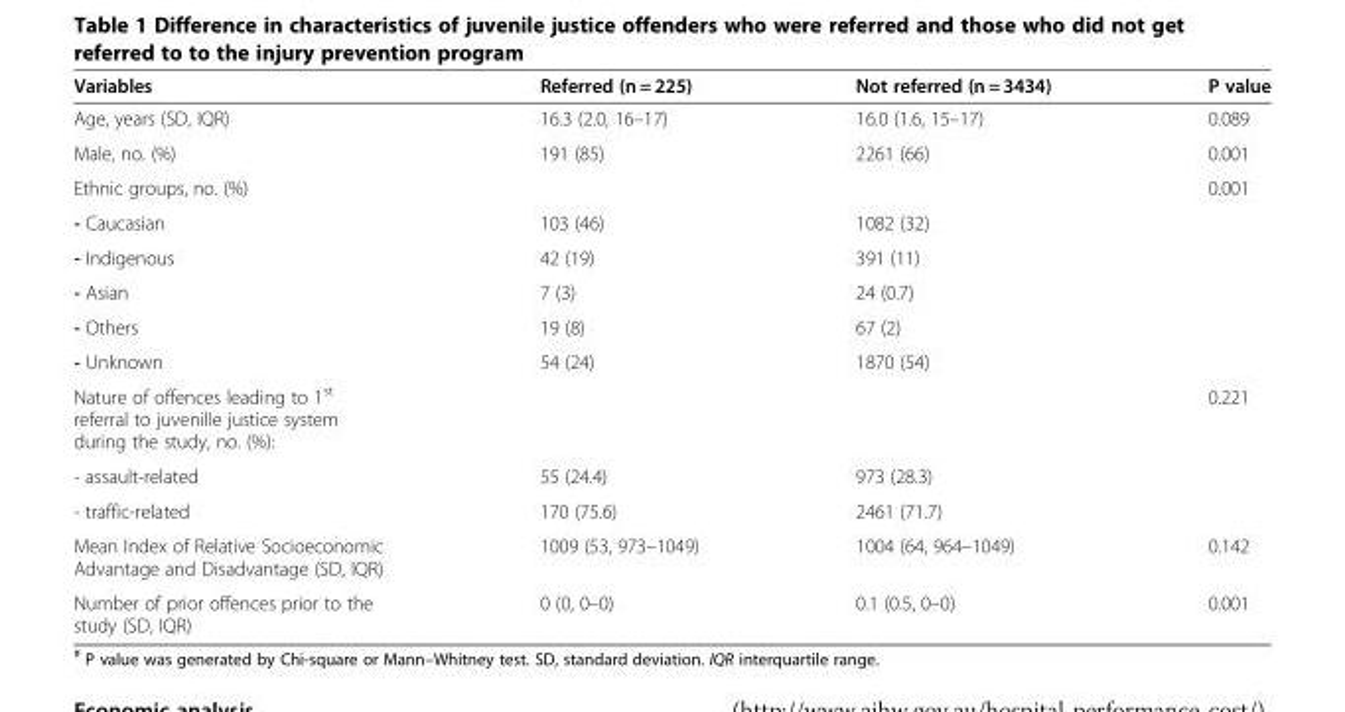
<table><thead><tr><td>Variables</td><td>Referred (n = 225)</td><td>Not referred (n = 3434)</td><td>P value</td></tr></thead><tbody><tr><td>Age, years (SD, IQR)</td><td>16.3 (2.0, 16–17)</td><td>16.0 (1.6, 15–17)</td><td>0.089</td></tr><tr><td>Male, no. (%)</td><td>191 (85)</td><td>2261 (66)</td><td>0.001</td></tr><tr><td>Ethnic groups, no. (%)</td><td></td><td></td><td>0.001</td></tr><tr><td>- Caucasian</td><td>103 (46)</td><td>1082 (32)</td><td></td></tr><tr><td>- Indigenous</td><td>42 (19)</td><td>391 (11)</td><td></td></tr><tr><td>- Asian</td><td>7 (3)</td><td>24 (0.7)</td><td></td></tr><tr><td>- Others</td><td>19 (8)</td><td>67 (2)</td><td></td></tr><tr><td>- Unknown</td><td>54 (24)</td><td>1870 (54)</td><td></td></tr><tr><td>Nature of offences leading to 1<sup>st</sup> referral to juvenille justice system during the study, no. (%):</td><td></td><td></td><td>0.221</td></tr><tr><td>- assault-related</td><td>55 (24.4)</td><td>973 (28.3)</td><td></td></tr><tr><td>- traffic-related</td><td>170 (75.6)</td><td>2461 (71.7)</td><td></td></tr><tr><td>Mean Index of Relative Socioeconomic Advantage and Disadvantage (SD, IQR)</td><td>1009 (53, 973–1049)</td><td>1004 (64, 964–1049)</td><td>0.142</td></tr><tr><td>Number of prior offences prior to the study (SD, IQR)</td><td>0 (0, 0–0)</td><td>0.1 (0.5, 0–0)</td><td>0.001</td></tr></tbody></table>